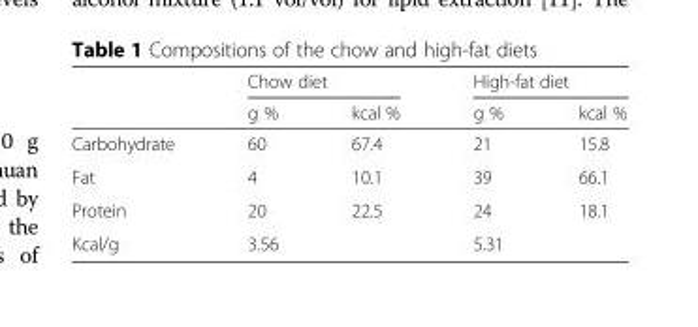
<table><thead><tr><td rowspan="2"></td><td colspan="2">Chow diet</td><td colspan="2">High-fat diet</td></tr><tr><td>g %</td><td>kcal %</td><td>g %</td><td>kcal %</td></tr></thead><tbody><tr><td>Carbohydrate</td><td>60</td><td>67.4</td><td>21</td><td>15.8</td></tr><tr><td>Fat</td><td>4</td><td>10.1</td><td>39</td><td>66.1</td></tr><tr><td>Protein</td><td>20</td><td>22.5</td><td>24</td><td>18.1</td></tr><tr><td>Kcal/g</td><td>3.56</td><td></td><td>5.31</td><td></td></tr></tbody></table>